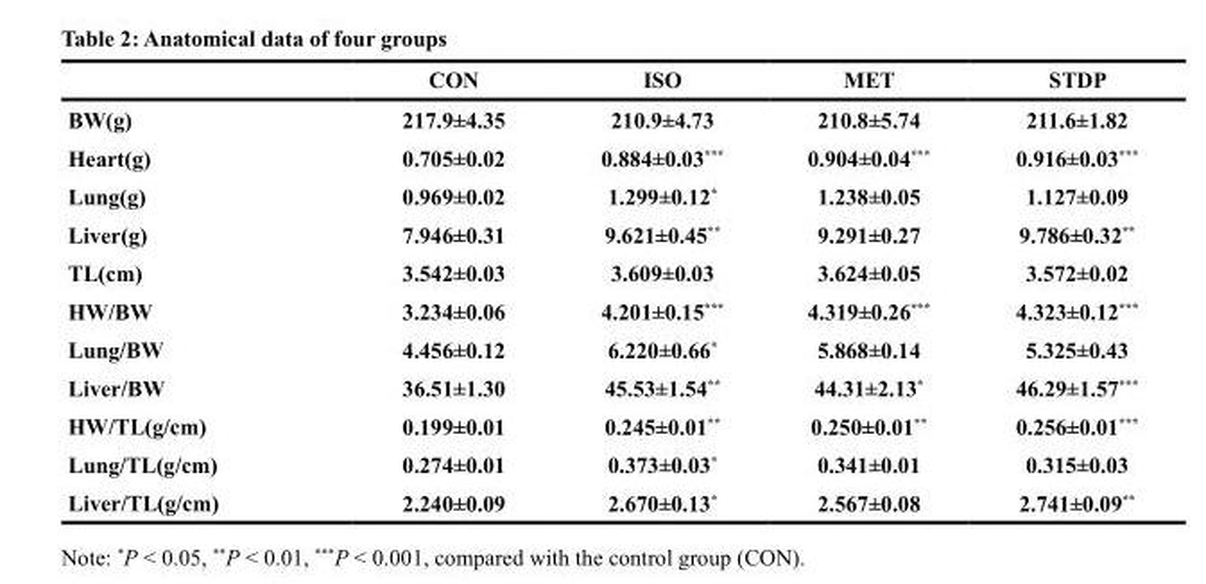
<table><thead><tr><td></td><td>CON</td><td>ISO</td><td>MET</td><td>STDP</td></tr></thead><tbody><tr><td>BW(g)</td><td>217.9±4.35</td><td>210.9±4.73</td><td>210.8±5.74</td><td>211.6±1.82</td></tr><tr><td>Heart(g)</td><td>0.705±0.02</td><td>0.884±0.03***</td><td>0.904±0.04***</td><td>0.916±0.03***</td></tr><tr><td>Lung(g)</td><td>0.969±0.02</td><td>1.299±0.12*</td><td>1.238±0.05</td><td>1.127±0.09</td></tr><tr><td>Liver(g)</td><td>7.946±0.31</td><td>9.621±0.45**</td><td>9.291±0.27</td><td>9.786±0.32**</td></tr><tr><td>TL(cm)</td><td>3.542±0.03</td><td>3.609±0.03</td><td>3.624±0.05</td><td>3.572±0.02</td></tr><tr><td>HW/BW</td><td>3.234±0.06</td><td>4.201±0.15***</td><td>4.319±0.26***</td><td>4.323±0.12***</td></tr><tr><td>Lung/BW</td><td>4.456±0.12</td><td>6.220±0.66*</td><td>5.868±0.14</td><td>5.325±0.43</td></tr><tr><td>Liver/BW</td><td>36.51±1.30</td><td>45.53±1.54**</td><td>44.31±2.13*</td><td>46.29±1.57***</td></tr><tr><td>HW/TL(g/cm)</td><td>0.199±0.01</td><td>0.245±0.01**</td><td>0.250±0.01**</td><td>0.256±0.01***</td></tr><tr><td>Lung/TL(g/cm)</td><td>0.274±0.01</td><td>0.373±0.03*</td><td>0.341±0.01</td><td>0.315±0.03</td></tr><tr><td>Liver/TL(g/cm)</td><td>2.240±0.09</td><td>2.670±0.13*</td><td>2.567±0.08</td><td>2.741±0.09**</td></tr></tbody></table>